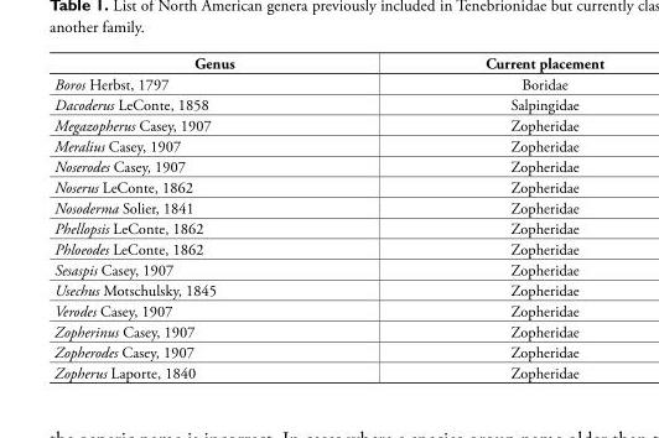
<table><thead><tr><td>Genus</td><td>Current placement</td></tr></thead><tbody><tr><td>Boros Herbst, 1797</td><td>Boridae</td></tr><tr><td>Dacoderus LeConte, 1858</td><td>Salpingidae</td></tr><tr><td>Megazopherus Casey, 1907</td><td>Zopheridae</td></tr><tr><td>Meralius Casey, 1907</td><td>Zopheridae</td></tr><tr><td>Noserodes Casey, 1907</td><td>Zopheridae</td></tr><tr><td>Noserus LeConte, 1862</td><td>Zopheridae</td></tr><tr><td>Nosoderma Solier, 1841</td><td>Zopheridae</td></tr><tr><td>Phellopsis LeConte, 1862</td><td>Zopheridae</td></tr><tr><td>Phloeodes LeConte, 1862</td><td>Zopheridae</td></tr><tr><td>Sesaspis Casey, 1907</td><td>Zopheridae</td></tr><tr><td>Usechus Motschulsky, 1845</td><td>Zopheridae</td></tr><tr><td>Verodes Casey, 1907</td><td>Zopheridae</td></tr><tr><td>Zopherinus Casey, 1907</td><td>Zopheridae</td></tr><tr><td>Zopherodes Casey, 1907</td><td>Zopheridae</td></tr><tr><td>Zopherus Laporte, 1840</td><td>Zopheridae</td></tr></tbody></table>